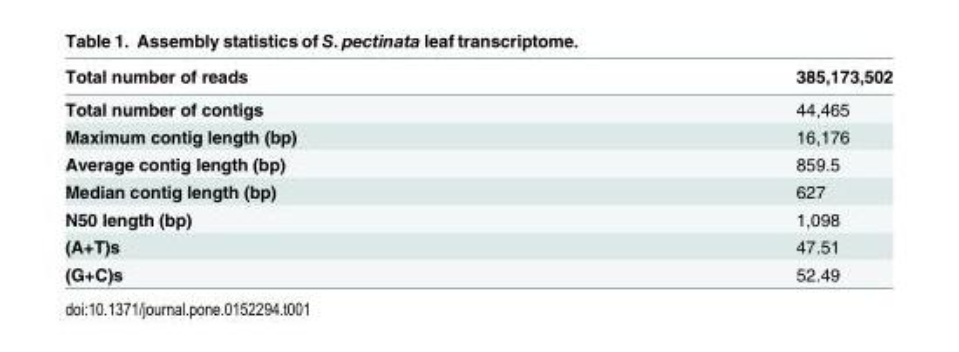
<table><thead><tr><td>Total number of reads</td><td>385,173,502</td></tr></thead><tbody><tr><td>Total number of contigs</td><td>44,465</td></tr><tr><td>Maximum contig length (bp)</td><td>16,176</td></tr><tr><td>Average contig length (bp)</td><td>859.5</td></tr><tr><td>Median contig length (bp)</td><td>627</td></tr><tr><td>N50 length (bp)</td><td>1,098</td></tr><tr><td>(A+T)s</td><td>47.51</td></tr><tr><td>(G+C)s</td><td>52.49</td></tr></tbody></table>